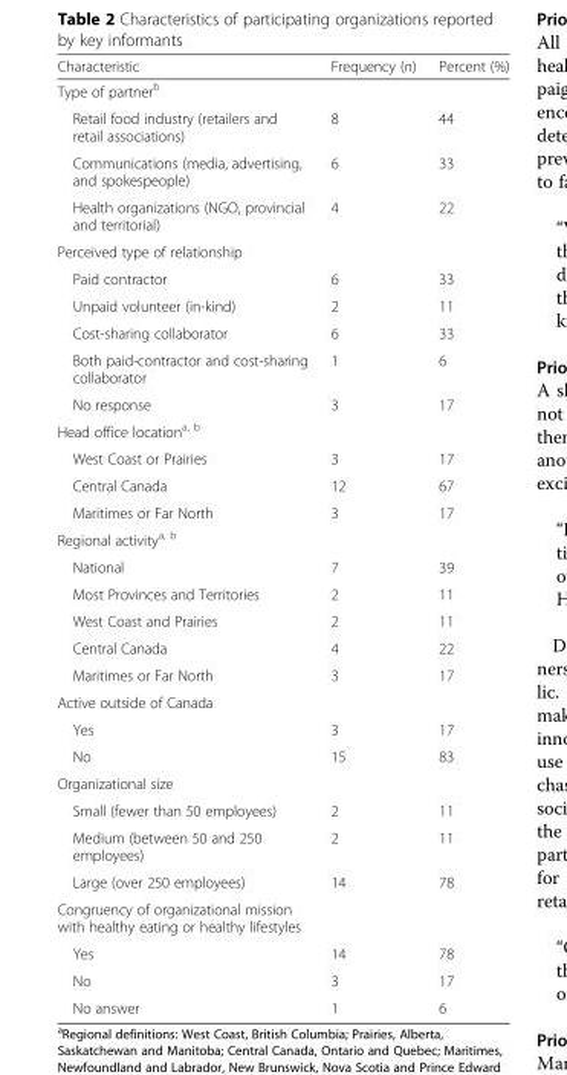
<table><thead><tr><td>Characteristic</td><td>Frequency (n)</td><td>Percent (%)</td></tr></thead><tbody><tr><td colspan="3">Type of partner<sup>b</sup></td></tr><tr><td>Retail food industry (retailers and retail associations)</td><td>8</td><td>44</td></tr><tr><td>Communications (media, advertising, and spokespeople)</td><td>6</td><td>33</td></tr><tr><td>Health organizations (NGO, provincial and territorial)</td><td>4</td><td>22</td></tr><tr><td colspan="3">Perceived type of relationship</td></tr><tr><td>Paid contractor</td><td>6</td><td>33</td></tr><tr><td>Unpaid volunteer (in-kind)</td><td>2</td><td>11</td></tr><tr><td>Cost-sharing collaborator</td><td>6</td><td>33</td></tr><tr><td>Both paid-contractor and cost-sharing collaborator</td><td>1</td><td>6</td></tr><tr><td>No response</td><td>3</td><td>17</td></tr><tr><td colspan="3">Head office location<sup>a, b</sup></td></tr><tr><td>West Coast or Prairies</td><td>3</td><td>17</td></tr><tr><td>Central Canada</td><td>12</td><td>67</td></tr><tr><td>Maritimes or Far North</td><td>3</td><td>17</td></tr><tr><td colspan="3">Regional activity<sup>a, b</sup></td></tr><tr><td>National</td><td>7</td><td>39</td></tr><tr><td>Most Provinces and Territories</td><td>2</td><td>11</td></tr><tr><td>West Coast and Prairies</td><td>2</td><td>11</td></tr><tr><td>Central Canada</td><td>4</td><td>22</td></tr><tr><td>Maritimes or Far North</td><td>3</td><td>17</td></tr><tr><td colspan="3">Active outside of Canada</td></tr><tr><td>Yes</td><td>3</td><td>17</td></tr><tr><td>No</td><td>15</td><td>83</td></tr><tr><td colspan="3">Organizational size</td></tr><tr><td>Small (fewer than 50 employees)</td><td>2</td><td>11</td></tr><tr><td>Medium (between 50 and 250 employees)</td><td>2</td><td>11</td></tr><tr><td>Large (over 250 employees)</td><td>14</td><td>78</td></tr><tr><td colspan="3">Congruency of organizational mission with healthy eating or healthy lifestyles</td></tr><tr><td>Yes</td><td>14</td><td>78</td></tr><tr><td>No</td><td>3</td><td>17</td></tr><tr><td>No answer</td><td>1</td><td>6</td></tr></tbody></table>